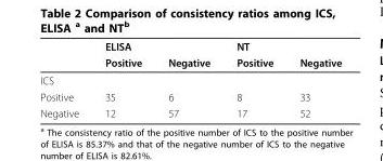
<table><thead><tr><td rowspan="2"></td><td colspan="2">ELISA</td><td colspan="2">NT</td></tr><tr><td>Positive</td><td>Negative</td><td>Positive</td><td>Negative</td></tr></thead><tbody><tr><td colspan="5">ICS</td></tr><tr><td>Positive</td><td>35</td><td>6</td><td>8</td><td>33</td></tr><tr><td>Negative</td><td>12</td><td>57</td><td>17</td><td>52</td></tr></tbody></table>